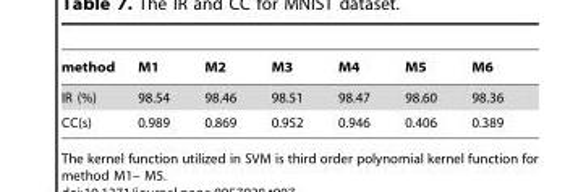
<table><thead><tr><td>method</td><td>M1</td><td>M2</td><td>M3</td><td>M4</td><td>M5</td><td>M6</td></tr></thead><tbody><tr><td>IR (%)</td><td>98.54</td><td>98.46</td><td>98.51</td><td>98.47</td><td>98.60</td><td>98.36</td></tr><tr><td>CC(s)</td><td>0.989</td><td>0.869</td><td>0.952</td><td>0.946</td><td>0.406</td><td>0.389</td></tr></tbody></table>